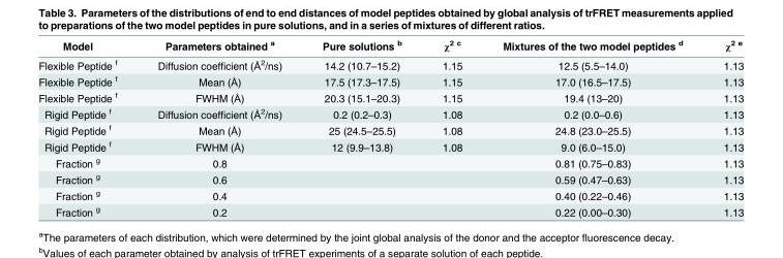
<table><thead><tr><td>Model</td><td>Parameters obtained <sup>a</sup></td><td>Pure solutions <sup>b</sup></td><td>χ<sup>2 c</sup></td><td>Mixtures of the two model peptides <sup>d</sup></td><td>χ<sup>2 e</sup></td></tr></thead><tbody><tr><td>Flexible Peptide <sup>f</sup></td><td>Diffusion coefficient (Å<sup>2</sup>/ns)</td><td>14.2 (10.7–15.2)</td><td>1.15</td><td>12.5 (5.5–14.0)</td><td>1.13</td></tr><tr><td>Flexible Peptide <sup>f</sup></td><td>Mean (Å)</td><td>17.5 (17.3–17.5)</td><td>1.15</td><td>17.0 (16.5–17.5)</td><td>1.13</td></tr><tr><td>Flexible Peptide <sup>f</sup></td><td>FWHM (Å)</td><td>20.3 (15.1–20.3)</td><td>1.15</td><td>19.4 (13–20)</td><td>1.13</td></tr><tr><td>Rigid Peptide <sup>f</sup></td><td>Diffusion coefficient (Å<sup>2</sup>/ns)</td><td>0.2 (0.2–0.3)</td><td>1.08</td><td>0.2 (0.0–0.6)</td><td>1.13</td></tr><tr><td>Rigid Peptide <sup>f</sup></td><td>Mean (Å)</td><td>25 (24.5–25.5)</td><td>1.08</td><td>24.8 (23.0–25.5)</td><td>1.13</td></tr><tr><td>Rigid Peptide <sup>f</sup></td><td>FWHM (Å)</td><td>12 (9.9–13.8)</td><td>1.08</td><td>9.0 (6.0–15.0)</td><td>1.13</td></tr><tr><td>Fraction <sup>g</sup></td><td>0.8</td><td></td><td></td><td>0.81 (0.75–0.83)</td><td>1.13</td></tr><tr><td>Fraction <sup>g</sup></td><td>0.6</td><td></td><td></td><td>0.59 (0.47–0.63)</td><td>1.13</td></tr><tr><td>Fraction <sup>g</sup></td><td>0.4</td><td></td><td></td><td>0.40 (0.22–0.46)</td><td>1.13</td></tr><tr><td>Fraction <sup>g</sup></td><td>0.2</td><td></td><td></td><td>0.22 (0.00–0.30)</td><td>1.13</td></tr></tbody></table>